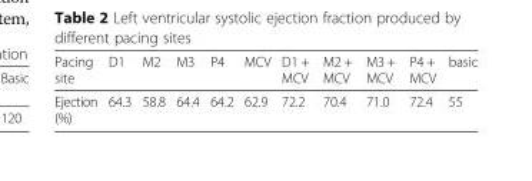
<table><thead><tr><td>Pacing site</td><td>D1</td><td>M2</td><td>M3</td><td>P4</td><td>MCV</td><td>D1 + MCV</td><td>M2 + MCV</td><td>M3 + MCV</td><td>P4 + MCV</td><td>basic</td></tr></thead><tbody><tr><td>Ejection (%)</td><td>64.3</td><td>58.8</td><td>64.4</td><td>64.2</td><td>62.9</td><td>72.2</td><td>70.4</td><td>71.0</td><td>72.4</td><td>55</td></tr></tbody></table>